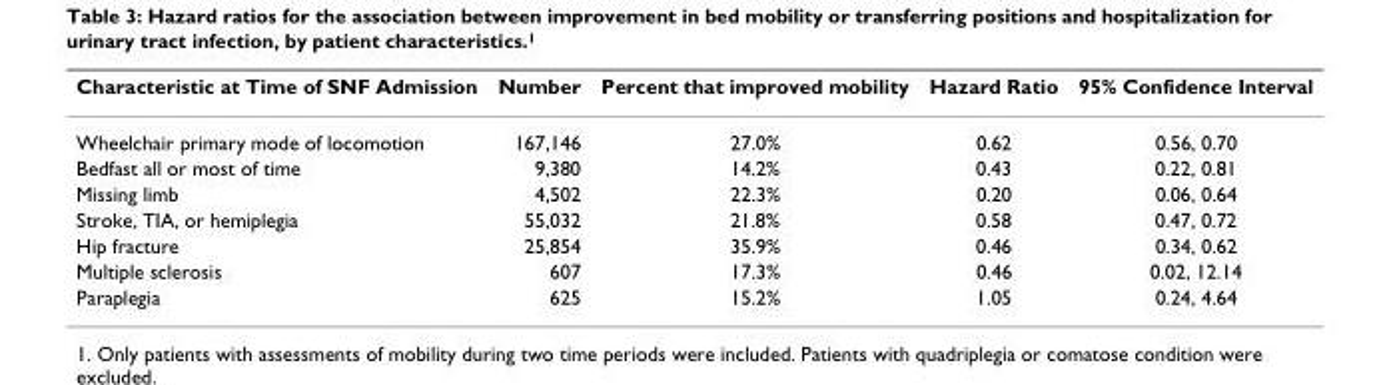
<table><thead><tr><td>Characteristic at Time of SNF Admission</td><td>Number</td><td>Percent that improved mobility</td><td>Hazard Ratio</td><td>95% Confidence Interval</td></tr></thead><tbody><tr><td>Wheelchair primary mode of locomotion</td><td>167,146</td><td>27.0%</td><td>0.62</td><td>0.56, 0.70</td></tr><tr><td>Bedfast all or most of time</td><td>9,380</td><td>14.2%</td><td>0.43</td><td>0.22, 0.81</td></tr><tr><td>Missing limb</td><td>4,502</td><td>22.3%</td><td>0.20</td><td>0.06, 0.64</td></tr><tr><td>Stroke, TIA, or hemiplegia</td><td>55,032</td><td>21.8%</td><td>0.58</td><td>0.47, 0.72</td></tr><tr><td>Hip fracture</td><td>25,854</td><td>35.9%</td><td>0.46</td><td>0.34, 0.62</td></tr><tr><td>Multiple sclerosis</td><td>607</td><td>17.3%</td><td>0.46</td><td>0.02, 12.14</td></tr><tr><td>Paraplegia</td><td>625</td><td>15.2%</td><td>1.05</td><td>0.24, 4.64</td></tr></tbody></table>